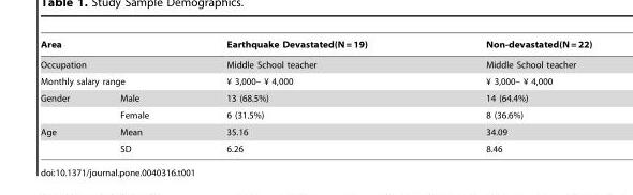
<table><thead><tr><td rowspan="3" colspan="2">Area Occupation Monthly salary range</td><td rowspan="4">Earthquake Devastated(N = 19) Middle School teacher ¥ 3,000– ¥ 4,000 13 (68.5%)</td><td rowspan="4">Non-devastated(N = 22) Middle School teacher ¥ 3,000– ¥ 4,000 14 (64.4%)</td></tr><tr></tr><tr></tr><tr><td>Gender</td><td>Male</td></tr></thead><tbody><tr><td></td><td>Female</td><td>6 (31.5%)</td><td>8 (36.6%)</td></tr><tr><td rowspan="2">Age</td><td>Mean</td><td>35.16</td><td>34.09</td></tr><tr><td>SD</td><td>6.26</td><td>8.46</td></tr></tbody></table>